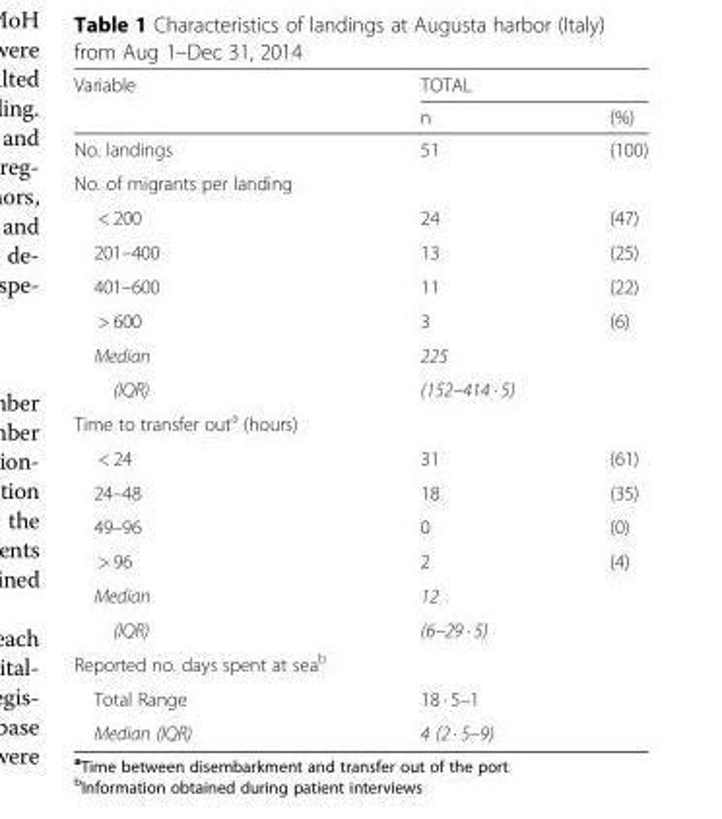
<table><thead><tr><td rowspan="2">Variable</td><td colspan="2">TOTAL</td></tr><tr><td>n</td><td>(%)</td></tr></thead><tbody><tr><td>No. landings</td><td>51</td><td>(100)</td></tr><tr><td colspan="3">No. of migrants per landing</td></tr><tr><td>&lt; 200</td><td>24</td><td>(47)</td></tr><tr><td>201–400</td><td>13</td><td>(25)</td></tr><tr><td>401–600</td><td>11</td><td>(22)</td></tr><tr><td>&gt; 600</td><td>3</td><td>(6)</td></tr><tr><td>Median</td><td>225</td><td rowspan="2"></td></tr><tr><td>(IQR)</td><td>(152–414 · 5)</td></tr><tr><td colspan="3">Time to transfer out<sup>a</sup> (hours)</td></tr><tr><td>&lt; 24</td><td>31</td><td>(61)</td></tr><tr><td>24–48</td><td>18</td><td>(35)</td></tr><tr><td>49–96</td><td>0</td><td>(0)</td></tr><tr><td>&gt; 96</td><td>2</td><td>(4)</td></tr><tr><td>Median</td><td>12</td><td rowspan="2"></td></tr><tr><td>(IQR)</td><td>(6–29 · 5)</td></tr><tr><td colspan="3">Reported no. days spent at sea<sup>b</sup></td></tr><tr><td>Total Range</td><td>18 · 5–1</td><td></td></tr><tr><td>Median (IQR)</td><td>4 (2 · 5–9)</td><td></td></tr></tbody></table>